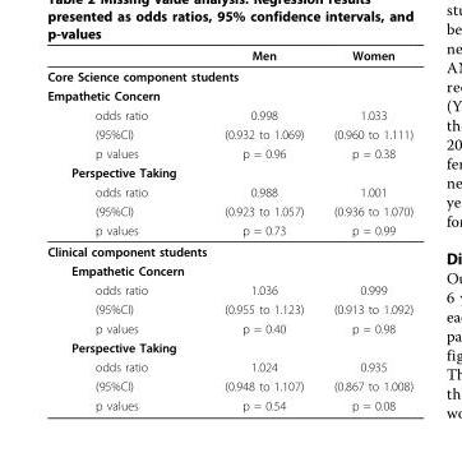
<table><thead><tr><td></td><td>Men</td><td>Women</td></tr></thead><tbody><tr><td colspan="3">Core Science component students</td></tr><tr><td colspan="3">Empathetic Concern</td></tr><tr><td>odds ratio</td><td>0.998</td><td>1.033</td></tr><tr><td>(95%CI)</td><td>(0.932 to 1.069)</td><td>(0.960 to 1.111)</td></tr><tr><td>p values</td><td>p = 0.96</td><td>p = 0.38</td></tr><tr><td colspan="3">Perspective Taking</td></tr><tr><td>odds ratio</td><td>0.988</td><td>1.001</td></tr><tr><td>(95%CI)</td><td>(0.923 to 1.057)</td><td>(0.936 to 1.070)</td></tr><tr><td>p values</td><td>p = 0.73</td><td>p = 0.99</td></tr><tr><td colspan="3">Clinical component students</td></tr><tr><td colspan="3">Empathetic Concern</td></tr><tr><td>odds ratio</td><td>1.036</td><td>0.999</td></tr><tr><td>(95%CI)</td><td>(0.955 to 1.123)</td><td>(0.913 to 1.092)</td></tr><tr><td>p values</td><td>p = 0.40</td><td>p = 0.98</td></tr><tr><td colspan="3">Perspective Taking</td></tr><tr><td>odds ratio</td><td>1.024</td><td>0.935</td></tr><tr><td>(95%CI)</td><td>(0.948 to 1.107)</td><td>(0.867 to 1.008)</td></tr><tr><td>p values</td><td>p = 0.54</td><td>p = 0.08</td></tr></tbody></table>